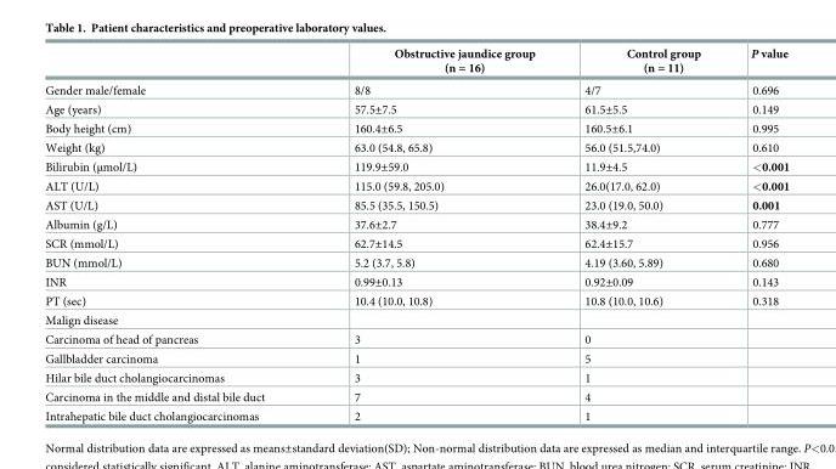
<table><thead><tr><td></td><td>Obstructive jaundice group (n = 16)</td><td>Control group (n = 11)</td><td>P value</td></tr></thead><tbody><tr><td>Gender male/female</td><td>8/8</td><td>4/7</td><td>0.696</td></tr><tr><td>Age (years)</td><td>57.5±7.5</td><td>61.5±5.5</td><td>0.149</td></tr><tr><td>Body height (cm)</td><td>160.4±6.5</td><td>160.5±6.1</td><td>0.995</td></tr><tr><td>Weight (kg)</td><td>63.0 (54.8, 65.8)</td><td>56.0 (51.5,74.0)</td><td>0.610</td></tr><tr><td>Bilirubin (μmol/L)</td><td>119.9±59.0</td><td>11.9±4.5</td><td>&lt;0.001</td></tr><tr><td>ALT (U/L)</td><td>115.0 (59.8, 205.0)</td><td>26.0(17.0, 62.0)</td><td>&lt;0.001</td></tr><tr><td>AST (U/L)</td><td>85.5 (35.5, 150.5)</td><td>23.0 (19.0, 50.0)</td><td>0.001</td></tr><tr><td>Albumin (g/L)</td><td>37.6±2.7</td><td>38.4±9.2</td><td>0.777</td></tr><tr><td>SCR (mmol/L)</td><td>62.7±14.5</td><td>62.4±15.7</td><td>0.956</td></tr><tr><td>BUN (mmol/L)</td><td>5.2 (3.7, 5.8)</td><td>4.19 (3.60, 5.89)</td><td>0.680</td></tr><tr><td>INR</td><td>0.99±0.13</td><td>0.92±0.09</td><td>0.143</td></tr><tr><td>PT (sec)</td><td>10.4 (10.0, 10.8)</td><td>10.8 (10.0, 10.6)</td><td>0.318</td></tr><tr><td colspan="4">Malign disease</td></tr><tr><td>Carcinoma of head of pancreas</td><td>3</td><td>0</td><td></td></tr><tr><td>Gallbladder carcinoma</td><td>1</td><td>5</td><td></td></tr><tr><td>Hilar bile duct cholangiocarcinomas</td><td>3</td><td>1</td><td></td></tr><tr><td>Carcinoma in the middle and distal bile duct</td><td>7</td><td>4</td><td></td></tr><tr><td>Intrahepatic bile duct cholangiocarcinomas</td><td>2</td><td>1</td><td></td></tr></tbody></table>